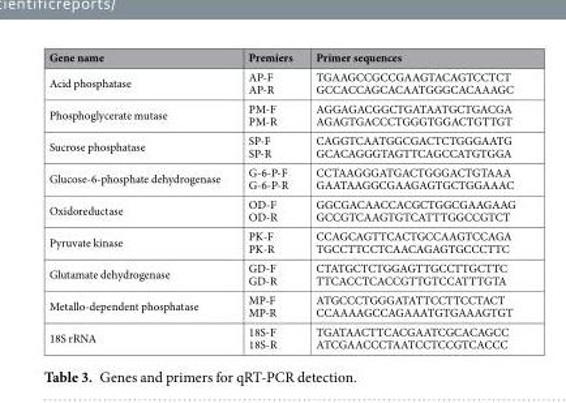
<table><thead><tr><td>Gene name</td><td>Premiers</td><td>Primer sequences</td></tr></thead><tbody><tr><td>Acid phosphatase</td><td>AP-F AP-R</td><td>TGAAGCCGCCGAAGTACAGTCCTCT GCCACCAGCACAATGGGCACAAAGC</td></tr><tr><td>Phosphoglycerate mutase</td><td>PM-F PM-R</td><td>AGGAGACGGCTGATAATGCTGACGA AGAGTGACCCTGGGTGGACTGTTGT</td></tr><tr><td>Sucrose phosphatase</td><td>SP-F SP-R</td><td>CAGGTCAATGGCGACTCTGGGAATG GCACAGGGTAGTTCAGCCATGTGGA</td></tr><tr><td>Glucose-6-phosphate dehydrogenase</td><td>G-6-P-F G-6-P-R</td><td>CCTAAGGGATGACTGGGACTGTAAA GAATAAGGCGAAGAGTGCTGGAAAC</td></tr><tr><td>Oxidoreductase</td><td>OD-F OD-R</td><td>GGCGACAACCACGCTGGCGAAGAAG GCCGTCAAGTGTCATTTGGCCGTCT</td></tr><tr><td>Pyruvate kinase</td><td>PK-F PK-R</td><td>CCAGCAGTTCACTGCCAAGTCCAGA TGCCTTCCTCAACAGAGTGCCCTTC</td></tr><tr><td>Glutamate dehydrogenase</td><td>GD-F GD-R</td><td>CTATGCTCTGGAGTTGCCTTGCTTC TTCACCTCACCGTTGTCCATTTGTA</td></tr><tr><td>Metallo-dependent phosphatase</td><td>MP-F MP-R</td><td>ATGCCCTGGGATATTCCTTCCTACT CCAAAAGCCAGAAATGTGAAAGTGT</td></tr><tr><td>18S rRNA</td><td>18S-F 18S-R</td><td>TGATAACTTCACGAATCGCACAGCC ATCGAACCCTAATCCTCCGTCACCC</td></tr></tbody></table>